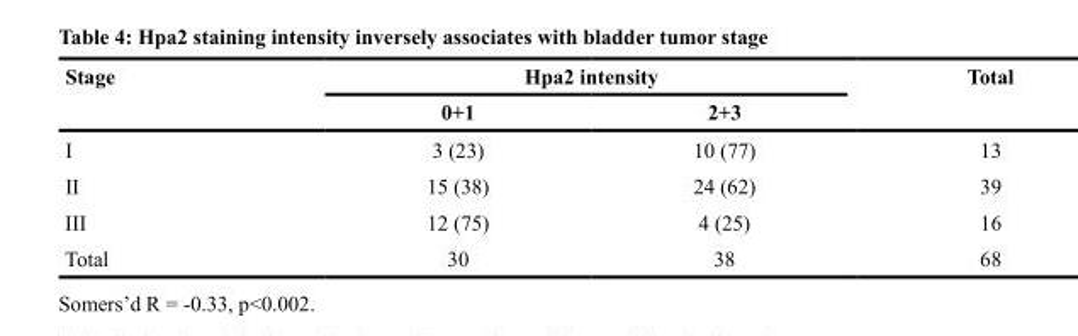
<table><thead><tr><td rowspan="2">Stage</td><td colspan="2">Hpa2 intensity</td><td rowspan="2">Total</td></tr><tr><td>0+1</td><td>2+3</td></tr></thead><tbody><tr><td>I</td><td>3 (23)</td><td>10 (77)</td><td>13</td></tr><tr><td>II</td><td>15 (38)</td><td>24 (62)</td><td>39</td></tr><tr><td>III</td><td>12 (75)</td><td>4 (25)</td><td>16</td></tr><tr><td>Total</td><td>30</td><td>38</td><td>68</td></tr></tbody></table>